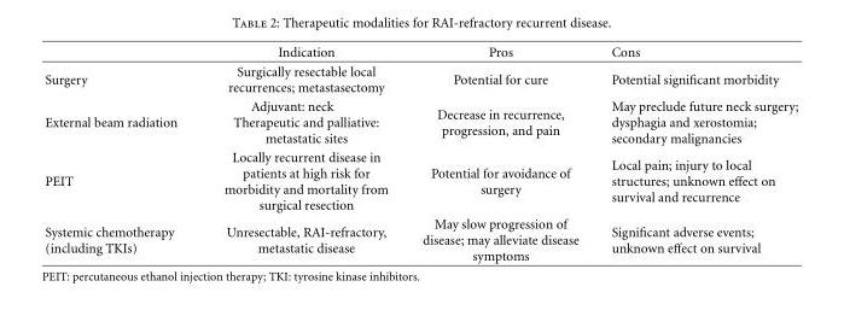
<table><thead><tr><td></td><td>Indication</td><td>Pros</td><td>Cons</td></tr></thead><tbody><tr><td>Surgery</td><td>Surgically resectable local recurrences; metastasectomy</td><td>Potential for cure</td><td>Potential significant morbidity</td></tr><tr><td>External beam radiation</td><td>Adjuvant: neck Therapeutic and palliative: metastatic sites</td><td>Decrease in recurrence, progression, and pain</td><td>May preclude future neck surgery; dysphagia and xerostomia; secondary malignancies</td></tr><tr><td>PEIT</td><td>Locally recurrent disease in patients at high risk for morbidity and mortality from surgical resection</td><td>Potential for avoidance of surgery</td><td>Local pain; injury to local structures; unknown effect on survival and recurrence</td></tr><tr><td>Systemic chemotherapy (including TKIs)</td><td>Unresectable, RAI-refractory, metastatic disease</td><td>May slow progression of disease; may alleviate disease symptoms</td><td>Significant adverse events; unknown effect on survival</td></tr></tbody></table>